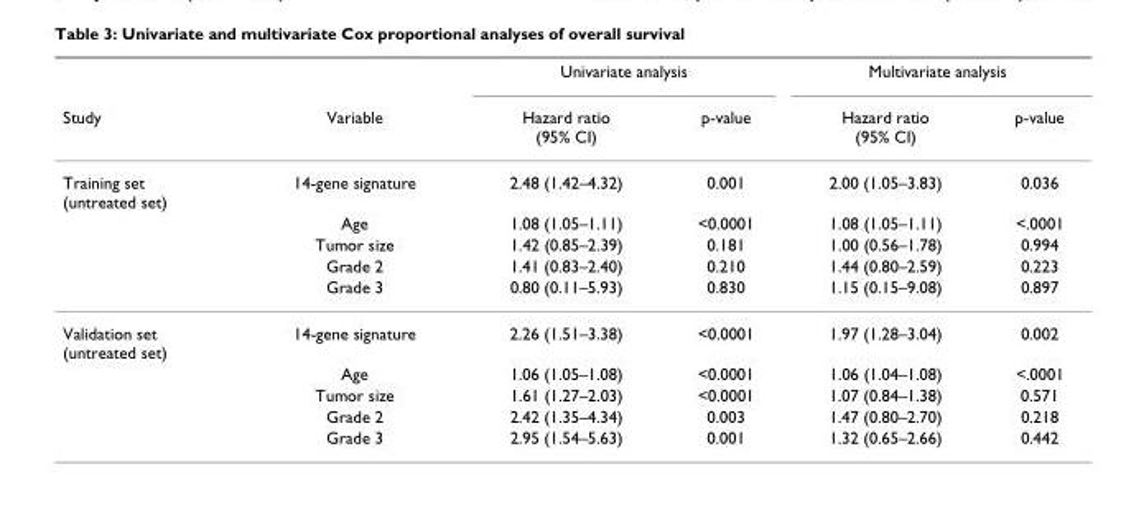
<table><thead><tr><td rowspan="2">Study</td><td rowspan="2">Variable</td><td colspan="2">Univariate analysis</td><td colspan="2">Multivariate analysis</td></tr><tr><td>Hazard ratio (95% CI)</td><td>p-value</td><td>Hazard ratio (95% CI)</td><td>p-value</td></tr></thead><tbody><tr><td rowspan="5">Training set (untreated set)</td><td>14-gene signature</td><td>2.48 (1.42–4.32)</td><td>0.001</td><td>2.00 (1.05–3.83)</td><td>0.036</td></tr><tr><td>Age</td><td>1.08 (1.05–1.11)</td><td>&lt;0.0001</td><td>1.08 (1.05–1.11)</td><td>&lt;.0001</td></tr><tr><td>Tumor size</td><td>1.42 (0.85–2.39)</td><td>0.181</td><td>1.00 (0.56–1.78)</td><td>0.994</td></tr><tr><td>Grade 2</td><td>1.41 (0.83–2.40)</td><td>0.210</td><td>1.44 (0.80–2.59)</td><td>0.223</td></tr><tr><td>Grade 3</td><td>0.80 (0.11–5.93)</td><td>0.830</td><td>1.15 (0.15–9.08)</td><td>0.897</td></tr><tr><td rowspan="5">Validation set (untreated set)</td><td>14-gene signature</td><td>2.26 (1.51–3.38)</td><td>&lt;0.0001</td><td>1.97 (1.28–3.04)</td><td>0.002</td></tr><tr><td>Age</td><td>1.06 (1.05–1.08)</td><td>&lt;0.0001</td><td>1.06 (1.04–1.08)</td><td>&lt;.0001</td></tr><tr><td>Tumor size</td><td>1.61 (1.27–2.03)</td><td>&lt;0.0001</td><td>1.07 (0.84–1.38)</td><td>0.571</td></tr><tr><td>Grade 2</td><td>2.42 (1.35–4.34)</td><td>0.003</td><td>1.47 (0.80–2.70)</td><td>0.218</td></tr><tr><td>Grade 3</td><td>2.95 (1.54–5.63)</td><td>0.001</td><td>1.32 (0.65–2.66)</td><td>0.442</td></tr></tbody></table>